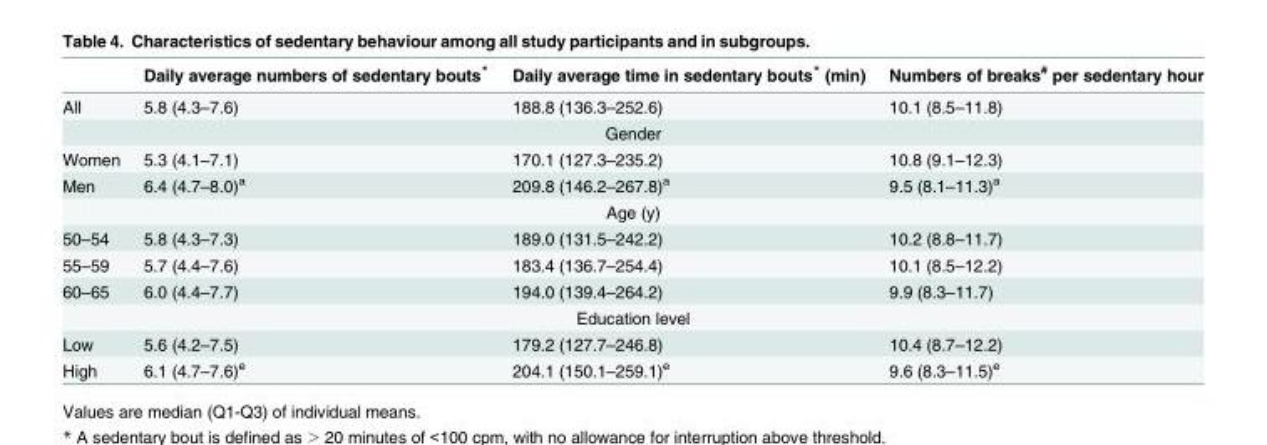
<table><thead><tr><td></td><td>Daily average numbers of sedentary bouts*</td><td>Daily average time in sedentary bouts* (min)</td><td>Numbers of breaks<sup>#</sup> per sedentary hour</td></tr></thead><tbody><tr><td>All</td><td>5.8 (4.3–7.6)</td><td>188.8 (136.3–252.6)</td><td>10.1 (8.5–11.8)</td></tr><tr><td colspan="4">Gender</td></tr><tr><td>Women</td><td>5.3 (4.1–7.1)</td><td>170.1 (127.3–235.2)</td><td>10.8 (9.1–12.3)</td></tr><tr><td>Men</td><td>6.4 (4.7–8.0)<sup>a</sup></td><td>209.8 (146.2–267.8)<sup>a</sup></td><td>9.5 (8.1–11.3)<sup>a</sup></td></tr><tr><td colspan="4">Age (y)</td></tr><tr><td>50–54</td><td>5.8 (4.3–7.3)</td><td>189.0 (131.5–242.2)</td><td>10.2 (8.8–11.7)</td></tr><tr><td>55–59</td><td>5.7 (4.4–7.6)</td><td>183.4 (136.7–254.4)</td><td>10.1 (8.5–12.2)</td></tr><tr><td>60–65</td><td>6.0 (4.4–7.7)</td><td>194.0 (139.4–264.2)</td><td>9.9 (8.3–11.7)</td></tr><tr><td colspan="4">Education level</td></tr><tr><td>Low</td><td>5.6 (4.2–7.5)</td><td>179.2 (127.7–246.8)</td><td>10.4 (8.7–12.2)</td></tr><tr><td>High</td><td>6.1 (4.7–7.6)<sup>e</sup></td><td>204.1 (150.1–259.1)<sup>e</sup></td><td>9.6 (8.3–11.5)<sup>e</sup></td></tr></tbody></table>